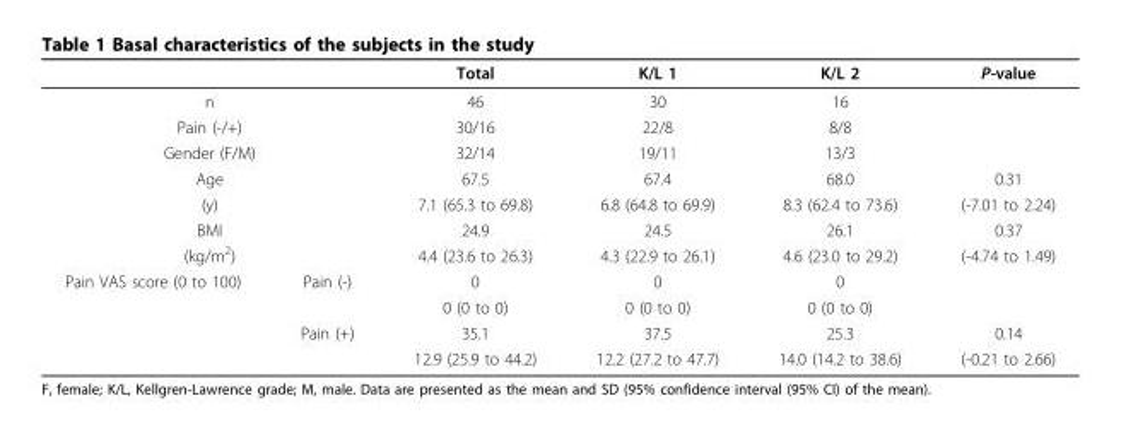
<table><thead><tr><td></td><td></td><td>Total</td><td>K/L 1</td><td>K/L 2</td><td>P-value</td></tr></thead><tbody><tr><td colspan="2">n</td><td>46</td><td>30</td><td>16</td><td></td></tr><tr><td colspan="2">Pain (-/+)</td><td>30/16</td><td>22/8</td><td>8/8</td><td></td></tr><tr><td colspan="2">Gender (F/M)</td><td>32/14</td><td>19/11</td><td>13/3</td><td></td></tr><tr><td colspan="2">Age</td><td>67.5</td><td>67.4</td><td>68.0</td><td>0.31</td></tr><tr><td colspan="2">(y)</td><td>7.1 (65.3 to 69.8)</td><td>6.8 (64.8 to 69.9)</td><td>8.3 (62.4 to 73.6)</td><td>(-7.01 to 2.24)</td></tr><tr><td colspan="2">BMI</td><td>24.9</td><td>24.5</td><td>26.1</td><td>0.37</td></tr><tr><td colspan="2">(kg/m<sup>2</sup>)</td><td>4.4 (23.6 to 26.3)</td><td>4.3 (22.9 to 26.1)</td><td>4.6 (23.0 to 29.2)</td><td>(-4.74 to 1.49)</td></tr><tr><td rowspan="4">Pain VAS score (0 to 100)</td><td>Pain (-)</td><td>0</td><td>0</td><td>0</td><td></td></tr><tr><td></td><td>0 (0 to 0)</td><td>0 (0 to 0)</td><td>0 (0 to 0)</td><td></td></tr><tr><td>Pain (+)</td><td>35.1</td><td>37.5</td><td>25.3</td><td>0.14</td></tr><tr><td></td><td>12.9 (25.9 to 44.2)</td><td>12.2 (27.2 to 47.7)</td><td>14.0 (14.2 to 38.6)</td><td>(-0.21 to 2.66)</td></tr></tbody></table>